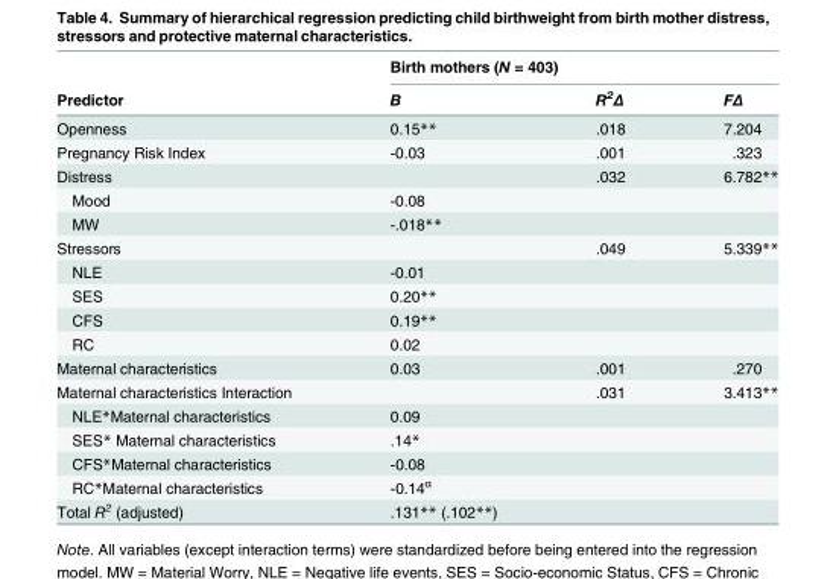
<table><thead><tr><td rowspan="2">Predictor</td><td colspan="3">Birth mothers (N = 403)</td></tr><tr><td>B</td><td>R<sup>2</sup>Δ</td><td>FΔ</td></tr></thead><tbody><tr><td>Openness</td><td>0.15**</td><td>.018</td><td>7.204</td></tr><tr><td>Pregnancy Risk Index</td><td>-0.03</td><td>.001</td><td>.323</td></tr><tr><td>Distress</td><td></td><td>.032</td><td>6.782**</td></tr><tr><td>Mood</td><td>-0.08</td><td></td><td></td></tr><tr><td>MW</td><td>-.018**</td><td></td><td></td></tr><tr><td>Stressors</td><td></td><td>.049</td><td>5.339**</td></tr><tr><td>NLE</td><td>-0.01</td><td></td><td></td></tr><tr><td>SES</td><td>0.20**</td><td></td><td></td></tr><tr><td>CFS</td><td>0.19**</td><td></td><td></td></tr><tr><td>RC</td><td>0.02</td><td></td><td></td></tr><tr><td>Maternal characteristics</td><td>0.03</td><td>.001</td><td>.270</td></tr><tr><td>Maternal characteristics Interaction</td><td></td><td>.031</td><td>3.413**</td></tr><tr><td>NLE*Maternal characteristics</td><td>0.09</td><td></td><td></td></tr><tr><td>SES* Maternal characteristics</td><td>.14*</td><td></td><td></td></tr><tr><td>CFS*Maternal characteristics</td><td>-0.08</td><td></td><td></td></tr><tr><td>RC*Maternal characteristics</td><td>-0.14<sup>α</sup></td><td></td><td></td></tr><tr><td>Total R<sup>2</sup> (adjusted)</td><td>.131** (.102**)</td><td></td><td></td></tr></tbody></table>